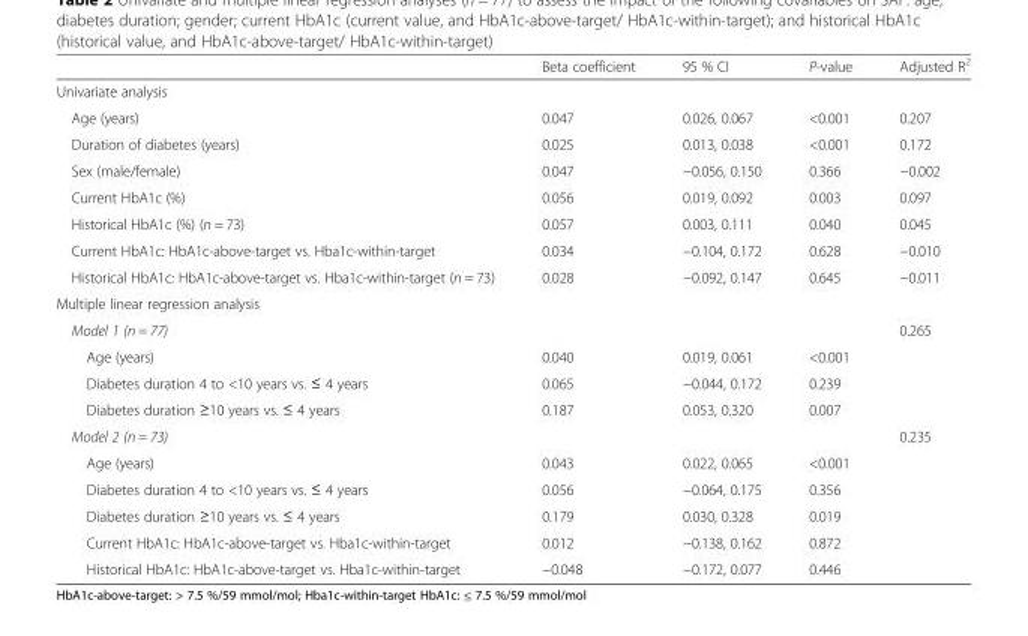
<table><thead><tr><td></td><td>Beta coefficient</td><td>95 % CI</td><td>P-value</td><td>Adjusted R<sup>2</sup></td></tr></thead><tbody><tr><td colspan="5">Univariate analysis</td></tr><tr><td>Age (years)</td><td>0.047</td><td>0.026, 0.067</td><td>&lt;0.001</td><td>0.207</td></tr><tr><td>Duration of diabetes (years)</td><td>0.025</td><td>0.013, 0.038</td><td>&lt;0.001</td><td>0.172</td></tr><tr><td>Sex (male/female)</td><td>0.047</td><td>−0.056, 0.150</td><td>0.366</td><td>−0.002</td></tr><tr><td>Current HbA1c (%)</td><td>0.056</td><td>0.019, 0.092</td><td>0.003</td><td>0.097</td></tr><tr><td>Historical HbA1c (%) (n = 73)</td><td>0.057</td><td>0.003, 0.111</td><td>0.040</td><td>0.045</td></tr><tr><td>Current HbA1c: HbA1c-above-target vs. Hba1c-within-target</td><td>0.034</td><td>−0.104, 0.172</td><td>0.628</td><td>−0.010</td></tr><tr><td>Historical HbA1c: HbA1c-above-target vs. Hba1c-within-target (n = 73)</td><td>0.028</td><td>−0.092, 0.147</td><td>0.645</td><td>−0.011</td></tr><tr><td colspan="5">Multiple linear regression analysis</td></tr><tr><td>Model 1 (n = 77)</td><td></td><td></td><td></td><td>0.265</td></tr><tr><td>Age (years)</td><td>0.040</td><td>0.019, 0.061</td><td>&lt;0.001</td><td rowspan="3"></td></tr><tr><td>Diabetes duration 4 to &lt;10 years vs. ≤ 4 years</td><td>0.065</td><td>−0.044, 0.172</td><td>0.239</td></tr><tr><td>Diabetes duration ≥10 years vs. ≤ 4 years</td><td>0.187</td><td>0.053, 0.320</td><td>0.007</td></tr><tr><td>Model 2 (n = 73)</td><td></td><td></td><td></td><td>0.235</td></tr><tr><td>Age (years)</td><td>0.043</td><td>0.022, 0.065</td><td>&lt;0.001</td><td rowspan="5"></td></tr><tr><td>Diabetes duration 4 to &lt;10 years vs. ≤ 4 years</td><td>0.056</td><td>−0.064, 0.175</td><td>0.356</td></tr><tr><td>Diabetes duration ≥10 years vs. ≤ 4 years</td><td>0.179</td><td>0.030, 0.328</td><td>0.019</td></tr><tr><td>Current HbA1c: HbA1c-above-target vs. Hba1c-within-target</td><td>0.012</td><td>−0.138, 0.162</td><td>0.872</td></tr><tr><td>Historical HbA1c: HbA1c-above-target vs. Hba1c-within-target</td><td>−0.048</td><td>−0.172, 0.077</td><td>0.446</td></tr></tbody></table>